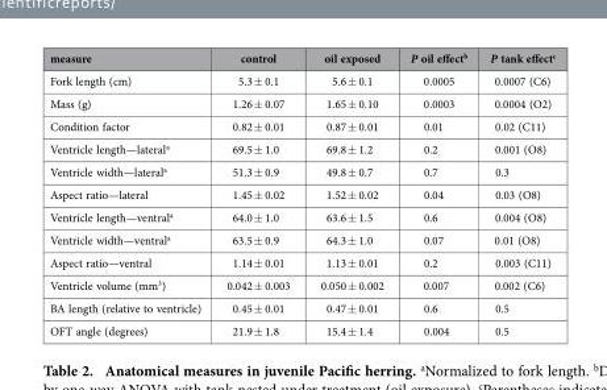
<table><thead><tr><td>measure</td><td>control</td><td>oil exposed</td><td>P oil effect<sup>b</sup></td><td>P tank effect<sup>c</sup></td></tr></thead><tbody><tr><td>Fork length (cm)</td><td>5.3 ± 0.1</td><td>5.6 ± 0.1</td><td>0.0005</td><td>0.0007 (C6)</td></tr><tr><td>Mass (g)</td><td>1.26 ± 0.07</td><td>1.65 ± 0.10</td><td>0.0003</td><td>0.0004 (O2)</td></tr><tr><td>Condition factor</td><td>0.82 ± 0.01</td><td>0.87 ± 0.01</td><td>0.01</td><td>0.02 (C11)</td></tr><tr><td>Ventricle length—lateral<sup>a</sup></td><td>69.5 ± 1.0</td><td>69.8 ± 1.2</td><td>0.2</td><td>0.001 (O8)</td></tr><tr><td>Ventricle width—lateral<sup>a</sup></td><td>51.3 ± 0.9</td><td>49.8 ± 0.7</td><td>0.7</td><td>0.3</td></tr><tr><td>Aspect ratio—lateral</td><td>1.45 ± 0.02</td><td>1.52 ± 0.02</td><td>0.04</td><td>0.03 (O8)</td></tr><tr><td>Ventricle length—ventral<sup>a</sup></td><td>64.0 ± 1.0</td><td>63.6 ± 1.5</td><td>0.6</td><td>0.004 (O8)</td></tr><tr><td>Ventricle width—ventral<sup>a</sup></td><td>63.5 ± 0.9</td><td>64.3 ± 1.0</td><td>0.07</td><td>0.01 (O8)</td></tr><tr><td>Aspect ratio—ventral</td><td>1.14 ± 0.01</td><td>1.13 ± 0.01</td><td>0.2</td><td>0.003 (C11)</td></tr><tr><td>Ventricle volume (mm<sup>3</sup>)</td><td>0.042 ± 0.003</td><td>0.050 ± 0.002</td><td>0.007</td><td>0.002 (C6)</td></tr><tr><td>BA length (relative to ventricle)</td><td>0.45 ± 0.01</td><td>0.47 ± 0.01</td><td>0.6</td><td>0.5</td></tr><tr><td>OFT angle (degrees)</td><td>21.9 ± 1.8</td><td>15.4 ± 1.4</td><td>0.004</td><td>0.5</td></tr></tbody></table>